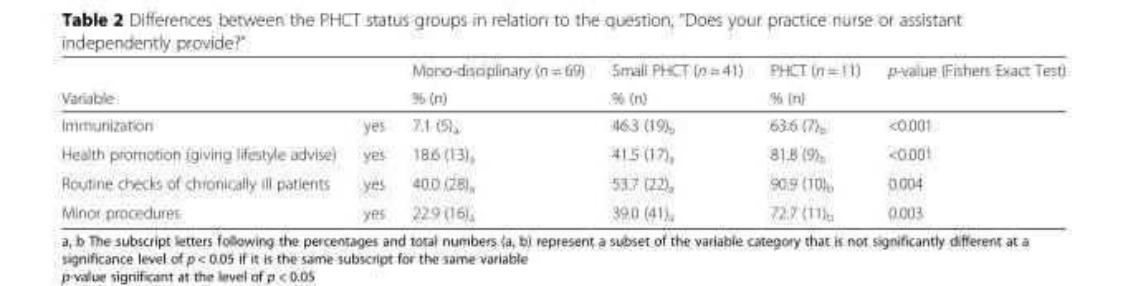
<table><thead><tr><td rowspan="2">Variable</td><td rowspan="2"></td><td rowspan="2">Mono-disciplinary (n = 69) % (n)</td><td rowspan="2">Small PHCT (n = 41) % (n)</td><td rowspan="2">PHCT (n = 11) % (n)</td><td rowspan="2">p-value (Fishers Exact Test)</td></tr><tr></tr></thead><tbody><tr><td>Immunization</td><td>yes</td><td>7.1 (5)<sub>a</sub></td><td>46.3 (19)<sub>b</sub></td><td>63.6 (7)<sub>b</sub></td><td>&lt;0.001</td></tr><tr><td>Health promotion (giving lifestyle advise)</td><td>yes</td><td>18.6 (13)<sub>a</sub></td><td>41.5 (17)<sub>a</sub></td><td>81.8 (9)<sub>b</sub></td><td>&lt;0.001</td></tr><tr><td>Routine checks of chronically ill patients</td><td>yes</td><td>40.0 (28)<sub>a</sub></td><td>53.7 (22)<sub>a</sub></td><td>90.9 (10)<sub>b</sub></td><td>0.004</td></tr><tr><td>Minor procedures</td><td>yes</td><td>22.9 (16)<sub>a</sub></td><td>39.0 (41)<sub>a</sub></td><td>72.7 (11)<sub>b</sub></td><td>0.003</td></tr></tbody></table>